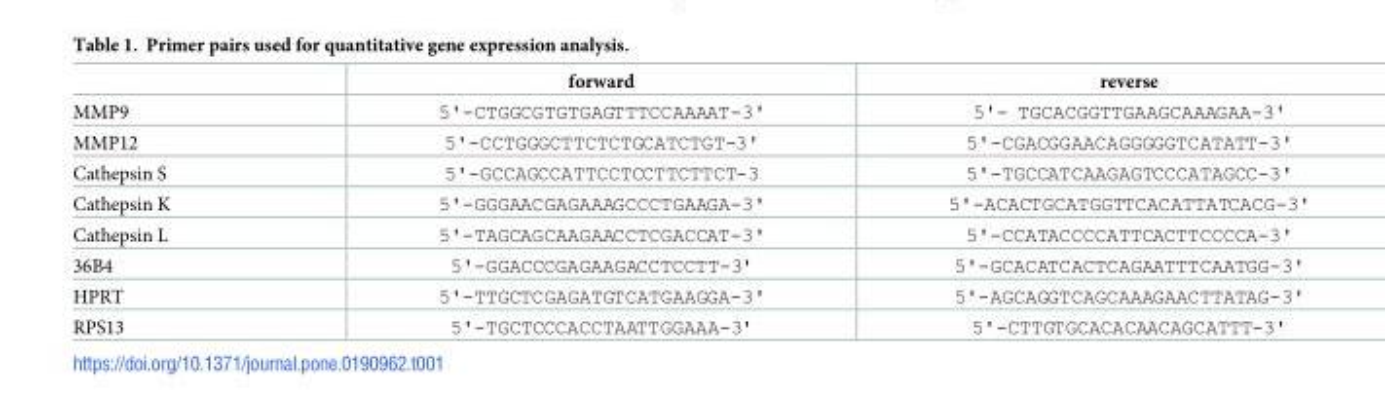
<table><thead><tr><td></td><td>forward</td><td>reverse</td></tr></thead><tbody><tr><td>MMP9</td><td>5&#x27;-CTGGCGTGTGAGTTTCCAAAAT-3&#x27;</td><td>5&#x27;- TGCACGGTTGAAGCAAAGAA-3&#x27;</td></tr><tr><td>MMP12</td><td>5&#x27;-CCTGGGCTTCTCTGCATCTGT-3&#x27;</td><td>5&#x27;-CGACGGAACAGGGGGTCATATT-3&#x27;</td></tr><tr><td>Cathepsin S</td><td>5&#x27;-GCCAGCCATTCCTCCTTCTTCT-3</td><td>5&#x27;-TGCCATCAAGAGTCCCATAGCC-3&#x27;</td></tr><tr><td>Cathepsin K</td><td>5&#x27;-GGGAACGAGAAAGCCCTGAAGA-3&#x27;</td><td>5&#x27;-ACACTGCATGGTTCACATTATCACG-3&#x27;</td></tr><tr><td>Cathepsin L</td><td>5&#x27;-TAGCAGCAAGAACCTCGACCAT-3&#x27;</td><td>5&#x27;-CCATACCCCATTCACTTCCCCA-3&#x27;</td></tr><tr><td>36B4</td><td>5&#x27;-GGACCCGAGAAGACCTCCTT-3&#x27;</td><td>5&#x27;-GCACATCACTCAGAATTTCAATGG-3&#x27;</td></tr><tr><td>HPRT</td><td>5&#x27;-TTGCTCGAGATGTCATGAAGGA-3&#x27;</td><td>5&#x27;-AGCAGGTCAGCAAAGAACTTATAG-3&#x27;</td></tr><tr><td>RPS13</td><td>5&#x27;-TGCTCCCACCTAATTGGAAA-3&#x27;</td><td>5&#x27;-CTTGTGCACACAACAGCATTT-3&#x27;</td></tr></tbody></table>